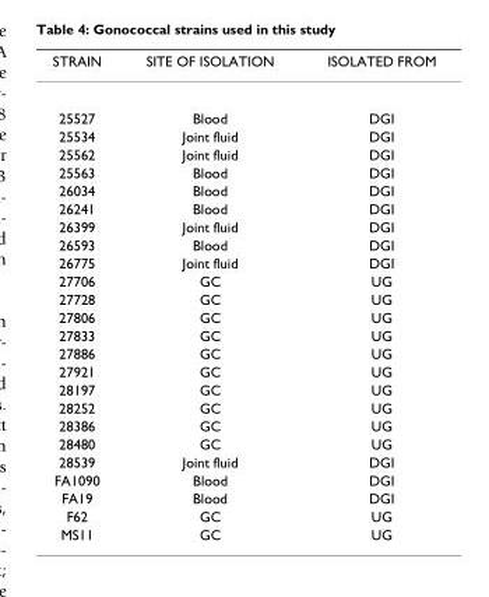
<table><thead><tr><td>STRAIN</td><td>SITE OF ISOLATION</td><td>ISOLATED FROM</td></tr></thead><tbody><tr><td>25527</td><td>Blood</td><td>DGI</td></tr><tr><td>25534</td><td>Joint fluid</td><td>DGI</td></tr><tr><td>25562</td><td>Joint fluid</td><td>DGI</td></tr><tr><td>25563</td><td>Blood</td><td>DGI</td></tr><tr><td>26034</td><td>Blood</td><td>DGI</td></tr><tr><td>26241</td><td>Blood</td><td>DGI</td></tr><tr><td>26399</td><td>Joint fluid</td><td>DGI</td></tr><tr><td>26593</td><td>Blood</td><td>DGI</td></tr><tr><td>26775</td><td>Joint fluid</td><td>DGI</td></tr><tr><td>27706</td><td>GC</td><td>UG</td></tr><tr><td>27728</td><td>GC</td><td>UG</td></tr><tr><td>27806</td><td>GC</td><td>UG</td></tr><tr><td>27833</td><td>GC</td><td>UG</td></tr><tr><td>27886</td><td>GC</td><td>UG</td></tr><tr><td>27921</td><td>GC</td><td>UG</td></tr><tr><td>28197</td><td>GC</td><td>UG</td></tr><tr><td>28252</td><td>GC</td><td>UG</td></tr><tr><td>28386</td><td>GC</td><td>UG</td></tr><tr><td>28480</td><td>GC</td><td>UG</td></tr><tr><td>28539</td><td>Joint fluid</td><td>DGI</td></tr><tr><td>FA1090</td><td>Blood</td><td>DGI</td></tr><tr><td>FA19</td><td>Blood</td><td>DGI</td></tr><tr><td>F62</td><td>GC</td><td>UG</td></tr><tr><td>MS11</td><td>GC</td><td>UG</td></tr></tbody></table>